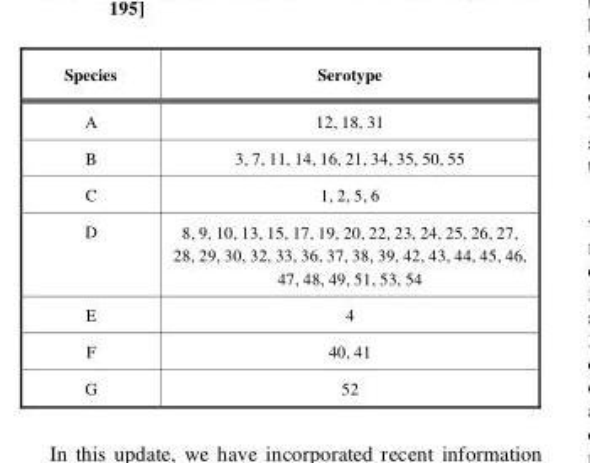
<table><thead><tr><td>Species</td><td>Serotype</td></tr></thead><tbody><tr><td>A</td><td>12, 18, 31</td></tr><tr><td>B</td><td>3, 7, 11, 14, 16, 21, 34, 35, 50, 55</td></tr><tr><td>C</td><td>1, 2, 5, 6</td></tr><tr><td>D</td><td>8, 9, 10, 13, 15, 17, 19, 20, 22, 23, 24, 25, 26, 27, 28, 29, 30, 32, 33, 36, 37, 38, 39, 42, 43, 44, 45, 46, 47, 48, 49, 51, 53, 54</td></tr><tr><td>E</td><td>4</td></tr><tr><td>F</td><td>40, 41</td></tr><tr><td>G</td><td>52</td></tr></tbody></table>